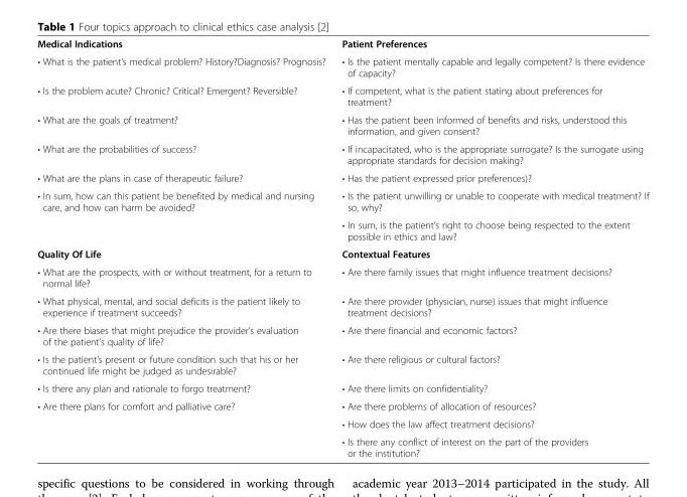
<table><tbody><tr><td>Medical Indications</td><td>Patient Preferences</td></tr><tr><td>• What is the patient’s medical problem? History?Diagnosis? Prognosis?</td><td>• Is the patient mentally capable and legally competent? Is there evidence of capacity?</td></tr><tr><td>• Is the problem acute? Chronic? Critical? Emergent? Reversible?</td><td>• If competent, what is the patient stating about preferences for treatment?</td></tr><tr><td>• What are the goals of treatment?</td><td>• Has the patient been informed of benefits and risks, understood this information, and given consent?</td></tr><tr><td>• What are the probabilities of success?</td><td>• If incapacitated, who is the appropriate surrogate? Is the surrogate using appropriate standards for decision making?</td></tr><tr><td>• What are the plans in case of therapeutic failure?</td><td>• Has the patient expressed prior preferences)?</td></tr><tr><td rowspan="2">• In sum, how can this patient be benefited by medical and nursing care, and how can harm be avoided?</td><td>• Is the patient unwilling or unable to cooperate with medical treatment? If so, why?</td></tr><tr><td>• In sum, is the patient’s right to choose being respected to the extent possible in ethics and law?</td></tr><tr><td>Quality Of Life</td><td>Contextual Features</td></tr><tr><td>• What are the prospects, with or without treatment, for a return to normal life?</td><td>• Are there family issues that might influence treatment decisions?</td></tr><tr><td>• What physical, mental, and social deficits is the patient likely to experience if treatment succeeds?</td><td>• Are there provider (physician, nurse) issues that might influence treatment decisions?</td></tr><tr><td>• Are there biases that might prejudice the provider’s evaluation of the patient’s quality of life?</td><td>• Are there financial and economic factors?</td></tr><tr><td>• Is the patient’s present or future condition such that his or her continued life might be judged as undesirable?</td><td>• Are there religious or cultural factors?</td></tr><tr><td>• Is there any plan and rationale to forgo treatment?</td><td>• Are there limits on confidentiality?</td></tr><tr><td rowspan="3">• Are there plans for comfort and palliative care?</td><td>• Are there problems of allocation of resources?</td></tr><tr><td>• How does the law affect treatment decisions?</td></tr><tr><td>• Is there any conflict of interest on the part of the providers or the institution?</td></tr></tbody></table>